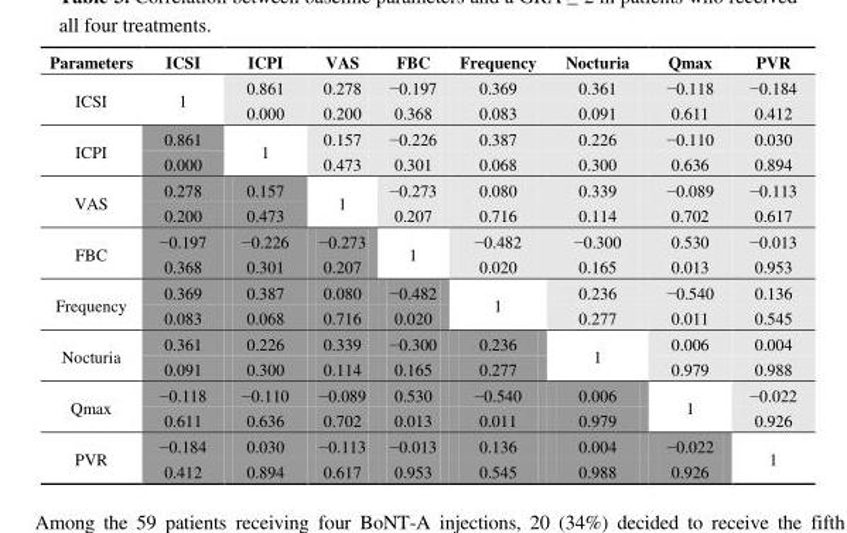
<table><thead><tr><td>Parameters</td><td>ICSI</td><td>ICPI</td><td>VAS</td><td>FBC</td><td>Frequency</td><td>Nocturia</td><td>Qmax</td><td>PVR</td></tr></thead><tbody><tr><td rowspan="2">ICSI</td><td rowspan="2">1</td><td>0.861</td><td>0.278</td><td>−0.197</td><td>0.369</td><td>0.361</td><td>−0.118</td><td>−0.184</td></tr><tr><td>0.000</td><td>0.200</td><td>0.368</td><td>0.083</td><td>0.091</td><td>0.611</td><td>0.412</td></tr><tr><td rowspan="2">ICPI</td><td>0.861</td><td rowspan="2">1</td><td>0.157</td><td>−0.226</td><td>0.387</td><td>0.226</td><td>−0.110</td><td>0.030</td></tr><tr><td>0.000</td><td>0.473</td><td>0.301</td><td>0.068</td><td>0.300</td><td>0.636</td><td>0.894</td></tr><tr><td rowspan="2">VAS</td><td>0.278</td><td>0.157</td><td rowspan="2">1</td><td>−0.273</td><td>0.080</td><td>0.339</td><td>−0.089</td><td>−0.113</td></tr><tr><td>0.200</td><td>0.473</td><td>0.207</td><td>0.716</td><td>0.114</td><td>0.702</td><td>0.617</td></tr><tr><td rowspan="2">FBC</td><td>−0.197</td><td>−0.226</td><td>−0.273</td><td rowspan="2">1</td><td>−0.482</td><td>−0.300</td><td>0.530</td><td>−0.013</td></tr><tr><td>0.368</td><td>0.301</td><td>0.207</td><td>0.020</td><td>0.165</td><td>0.013</td><td>0.953</td></tr><tr><td rowspan="2">Frequency</td><td>0.369</td><td>0.387</td><td>0.080</td><td>−0.482</td><td rowspan="2">1</td><td>0.236</td><td>−0.540</td><td>0.136</td></tr><tr><td>0.083</td><td>0.068</td><td>0.716</td><td>0.020</td><td>0.277</td><td>0.011</td><td>0.545</td></tr><tr><td rowspan="2">Nocturia</td><td>0.361</td><td>0.226</td><td>0.339</td><td>−0.300</td><td>0.236</td><td rowspan="2">1</td><td>0.006</td><td>0.004</td></tr><tr><td>0.091</td><td>0.300</td><td>0.114</td><td>0.165</td><td>0.277</td><td>0.979</td><td>0.988</td></tr><tr><td rowspan="2">Qmax</td><td>−0.118</td><td>−0.110</td><td>−0.089</td><td>0.530</td><td>−0.540</td><td>0.006</td><td rowspan="2">1</td><td>−0.022</td></tr><tr><td>0.611</td><td>0.636</td><td>0.702</td><td>0.013</td><td>0.011</td><td>0.979</td><td>0.926</td></tr><tr><td rowspan="2">PVR</td><td>−0.184</td><td>0.030</td><td>−0.113</td><td>−0.013</td><td>0.136</td><td>0.004</td><td>−0.022</td><td rowspan="2">1</td></tr><tr><td>0.412</td><td>0.894</td><td>0.617</td><td>0.953</td><td>0.545</td><td>0.988</td><td>0.926</td></tr></tbody></table>